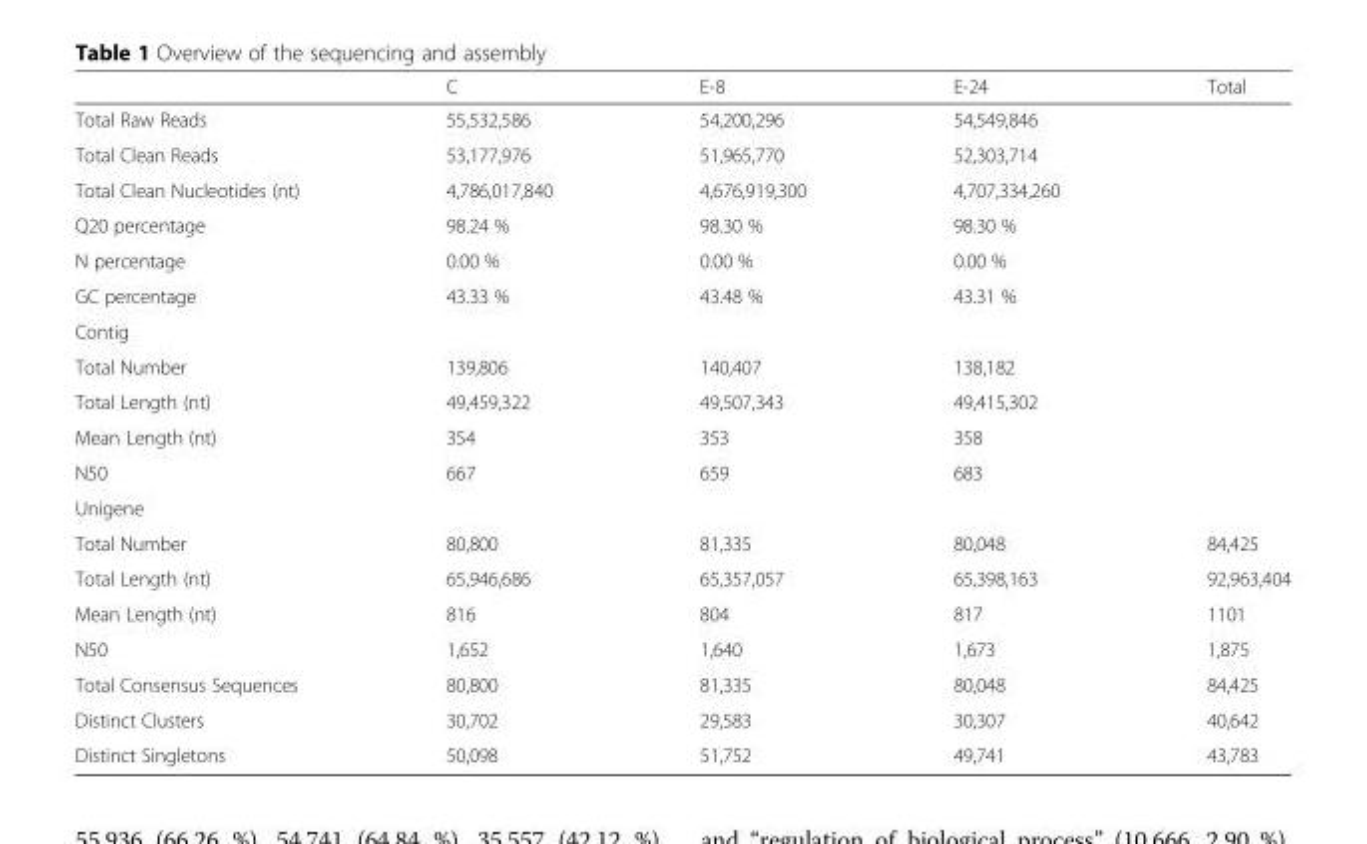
<table><thead><tr><td></td><td>C</td><td>E-8</td><td>E-24</td><td>Total</td></tr></thead><tbody><tr><td>Total Raw Reads</td><td>55,532,586</td><td>54,200,296</td><td>54,549,846</td><td></td></tr><tr><td>Total Clean Reads</td><td>53,177,976</td><td>51,965,770</td><td>52,303,714</td><td></td></tr><tr><td>Total Clean Nucleotides (nt)</td><td>4,786,017,840</td><td>4,676,919,300</td><td>4,707,334,260</td><td></td></tr><tr><td>Q20 percentage</td><td>98.24 %</td><td>98.30 %</td><td>98.30 %</td><td></td></tr><tr><td>N percentage</td><td>0.00 %</td><td>0.00 %</td><td>0.00 %</td><td></td></tr><tr><td>GC percentage</td><td>43.33 %</td><td>43.48 %</td><td>43.31 %</td><td></td></tr><tr><td colspan="5">Contig</td></tr><tr><td>Total Number</td><td>139,806</td><td>140,407</td><td>138,182</td><td></td></tr><tr><td>Total Length (nt)</td><td>49,459,322</td><td>49,507,343</td><td>49,415,302</td><td></td></tr><tr><td>Mean Length (nt)</td><td>354</td><td>353</td><td>358</td><td></td></tr><tr><td>N50</td><td>667</td><td>659</td><td>683</td><td></td></tr><tr><td colspan="5">Unigene</td></tr><tr><td>Total Number</td><td>80,800</td><td>81,335</td><td>80,048</td><td>84,425</td></tr><tr><td>Total Length (nt)</td><td>65,946,686</td><td>65,357,057</td><td>65,398,163</td><td>92,963,404</td></tr><tr><td>Mean Length (nt)</td><td>816</td><td>804</td><td>817</td><td>1101</td></tr><tr><td>N50</td><td>1,652</td><td>1,640</td><td>1,673</td><td>1,875</td></tr><tr><td>Total Consensus Sequences</td><td>80,800</td><td>81,335</td><td>80,048</td><td>84,425</td></tr><tr><td>Distinct Clusters</td><td>30,702</td><td>29,583</td><td>30,307</td><td>40,642</td></tr><tr><td>Distinct Singletons</td><td>50,098</td><td>51,752</td><td>49,741</td><td>43,783</td></tr></tbody></table>